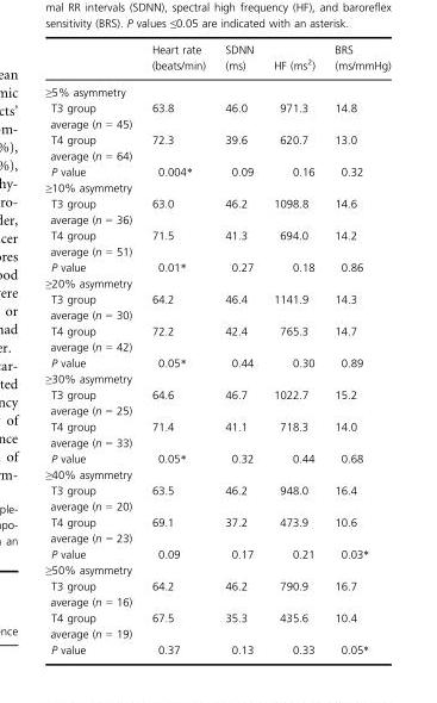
<table><thead><tr><td></td><td>Heart rate (beats/min)</td><td>SDNN (ms)</td><td>HF (ms<sup>2</sup>)</td><td>BRS (ms/mmHg)</td></tr></thead><tbody><tr><td colspan="5">≥5% asymmetry</td></tr><tr><td>T3 group average (n = 45)</td><td>63.8</td><td>46.0</td><td>971.3</td><td>14.8</td></tr><tr><td>T4 group average (n = 64)</td><td>72.3</td><td>39.6</td><td>620.7</td><td>13.0</td></tr><tr><td>P value</td><td>0.004*</td><td>0.09</td><td>0.16</td><td>0.32</td></tr><tr><td colspan="5">≥10% asymmetry</td></tr><tr><td>T3 group average (n = 36)</td><td>63.0</td><td>46.2</td><td>1098.8</td><td>14.6</td></tr><tr><td>T4 group average (n = 51)</td><td>71.5</td><td>41.3</td><td>694.0</td><td>14.2</td></tr><tr><td>P value</td><td>0.01*</td><td>0.27</td><td>0.18</td><td>0.86</td></tr><tr><td colspan="5">≥20% asymmetry</td></tr><tr><td>T3 group average (n = 30)</td><td>64.2</td><td>46.4</td><td>1141.9</td><td>14.3</td></tr><tr><td>T4 group average (n = 42)</td><td>72.2</td><td>42.4</td><td>765.3</td><td>14.7</td></tr><tr><td>P value</td><td>0.05*</td><td>0.44</td><td>0.30</td><td>0.89</td></tr><tr><td colspan="5">≥30% asymmetry</td></tr><tr><td>T3 group average (n = 25)</td><td>64.6</td><td>46.7</td><td>1022.7</td><td>15.2</td></tr><tr><td>T4 group average (n = 33)</td><td>71.4</td><td>41.1</td><td>718.3</td><td>14.0</td></tr><tr><td>P value</td><td>0.05*</td><td>0.32</td><td>0.44</td><td>0.68</td></tr><tr><td colspan="5">≥40% asymmetry</td></tr><tr><td>T3 group average (n = 20)</td><td>63.5</td><td>46.2</td><td>948.0</td><td>16.4</td></tr><tr><td>T4 group average (n = 23)</td><td>69.1</td><td>37.2</td><td>473.9</td><td>10.6</td></tr><tr><td>P value</td><td>0.09</td><td>0.17</td><td>0.21</td><td>0.03*</td></tr><tr><td colspan="5">≥50% asymmetry</td></tr><tr><td>T3 group average (n = 16)</td><td>64.2</td><td>46.2</td><td>790.9</td><td>16.7</td></tr><tr><td>T4 group average (n = 19)</td><td>67.5</td><td>35.3</td><td>435.6</td><td>10.4</td></tr><tr><td>P value</td><td>0.37</td><td>0.13</td><td>0.33</td><td>0.05*</td></tr></tbody></table>